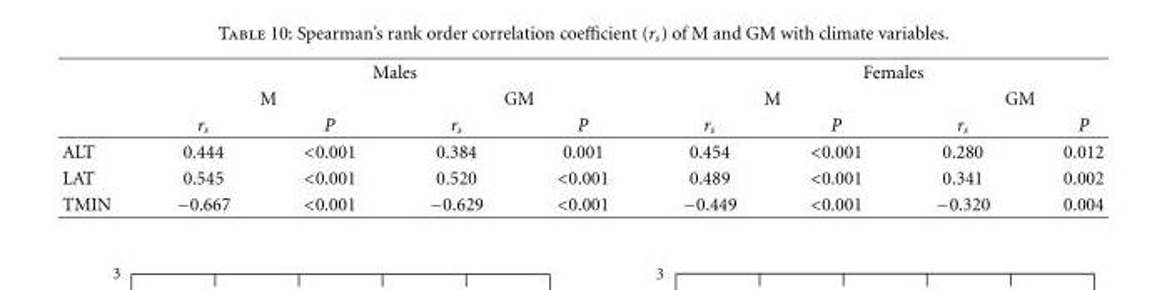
<table><thead><tr><td rowspan="3"></td><td colspan="4">Males</td><td colspan="4">Females</td></tr><tr><td colspan="2">M</td><td colspan="2">GM</td><td colspan="2">M</td><td colspan="2">GM</td></tr><tr><td>r<sub>s</sub></td><td>P</td><td>r<sub>s</sub></td><td>P</td><td>r<sub>s</sub></td><td>P</td><td>r<sub>s</sub></td><td>P</td></tr></thead><tbody><tr><td>ALT</td><td>0.444</td><td>&lt;0.001</td><td>0.384</td><td>0.001</td><td>0.454</td><td>&lt;0.001</td><td>0.280</td><td>0.012</td></tr><tr><td>LAT</td><td>0.545</td><td>&lt;0.001</td><td>0.520</td><td>&lt;0.001</td><td>0.489</td><td>&lt;0.001</td><td>0.341</td><td>0.002</td></tr><tr><td>TMIN</td><td>−0.667</td><td>&lt;0.001</td><td>−0.629</td><td>&lt;0.001</td><td>−0.449</td><td>&lt;0.001</td><td>−0.320</td><td>0.004</td></tr></tbody></table>